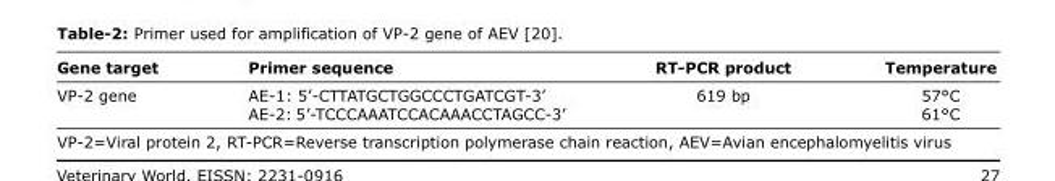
<table><thead><tr><td>Gene target</td><td>Primer sequence</td><td>RT-PCR product</td><td>Temperature</td></tr></thead><tbody><tr><td>VP-2 gene</td><td>AE-1: 5’-CTTATGCTGGCCCTGATCGT-3’ AE-2: 5’-TCCCAAATCCACAAACCTAGCC-3’</td><td>619 bp</td><td>57°C 61°C</td></tr></tbody></table>